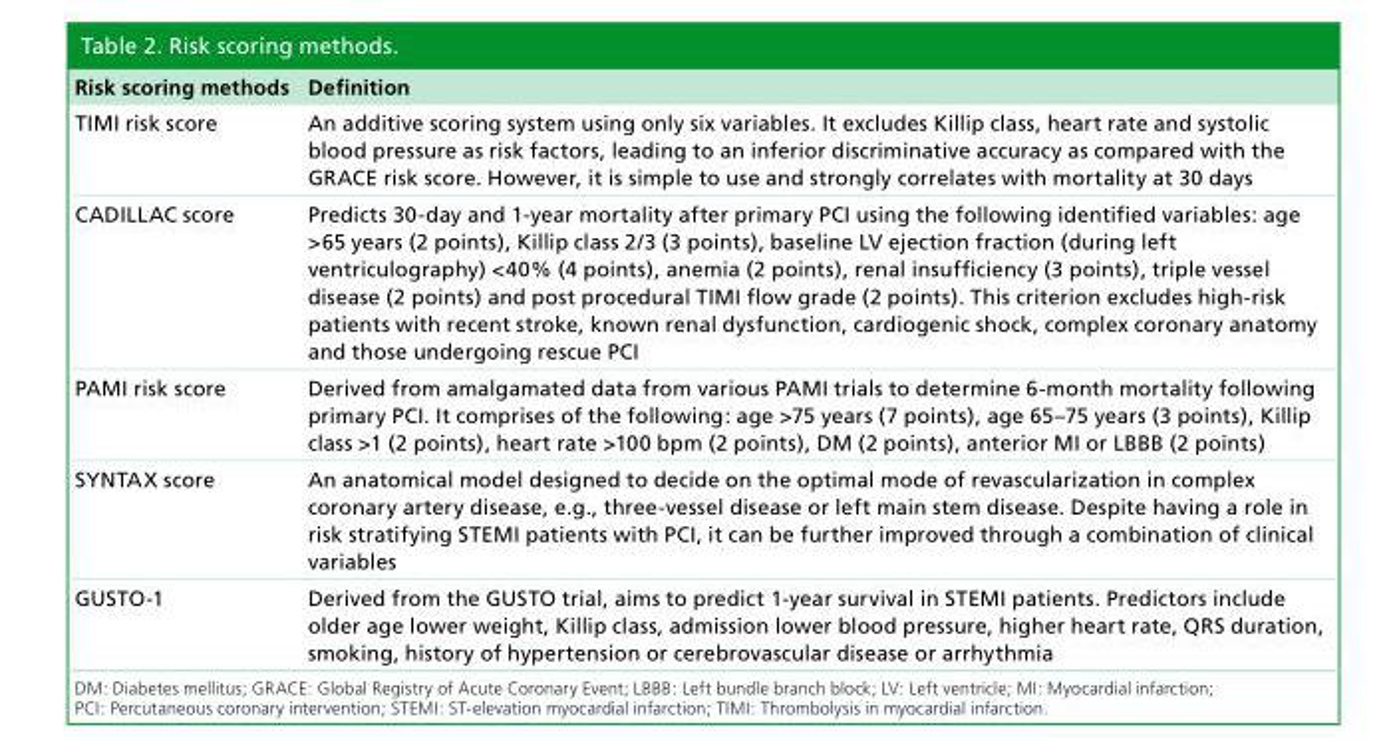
<table><thead><tr><td>Risk scoring methods</td><td>Definition</td></tr></thead><tbody><tr><td>TIMI risk score</td><td>An additive scoring system using only six variables. It excludes Killip class, heart rate and systolic blood pressure as risk factors, leading to an inferior discriminative accuracy as compared with the GRACE risk score. However, it is simple to use and strongly correlates with mortality at 30 days</td></tr><tr><td>CADILLAC score</td><td>Predicts 30-day and 1-year mortality after primary PCI using the following identified variables: age &gt;65 years (2 points), Killip class 2/3 (3 points), baseline LV ejection fraction (during left ventriculography) &lt;40% (4 points), anemia (2 points), renal insufficiency (3 points), triple vessel disease (2 points) and post procedural TIMI flow grade (2 points). This criterion excludes high-risk patients with recent stroke, known renal dysfunction, cardiogenic shock, complex coronary anatomy and those undergoing rescue PCI</td></tr><tr><td>PAMI risk score</td><td>Derived from amalgamated data from various PAMI trials to determine 6-month mortality following primary PCI. It comprises of the following: age &gt;75 years (7 points), age 65–75 years (3 points), Killip class &gt;1 (2 points), heart rate &gt;100 bpm (2 points), DM (2 points), anterior MI or LBBB (2 points)</td></tr><tr><td>SYNTAX score</td><td>An anatomical model designed to decide on the optimal mode of revascularization in complex coronary artery disease, e.g., three-vessel disease or left main stem disease. Despite having a role in risk stratifying STEMI patients with PCI, it can be further improved through a combination of clinical variables</td></tr><tr><td>GUSTO-1</td><td>Derived from the GUSTO trial, aims to predict 1-year survival in STEMI patients. Predictors include older age lower weight, Killip class, admission lower blood pressure, higher heart rate, QRS duration, smoking, history of hypertension or cerebrovascular disease or arrhythmia</td></tr></tbody></table>